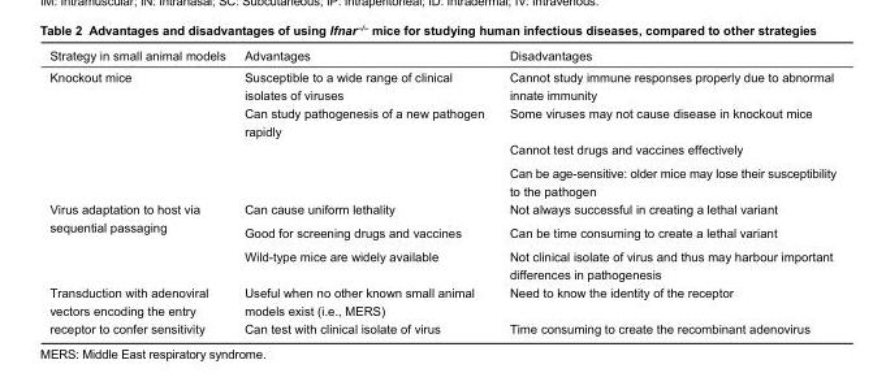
<table><thead><tr><td>Strategy in small animal models</td><td>Advantages</td><td>Disadvantages</td></tr></thead><tbody><tr><td rowspan="4">Knockout mice</td><td>Susceptible to a wide range of clinical isolates of viruses</td><td>Cannot study immune responses properly due to abnormal innate immunity</td></tr><tr><td>Can study pathogenesis of a new pathogen rapidly</td><td>Some viruses may not cause disease in knockout mice</td></tr><tr><td></td><td>Cannot test drugs and vaccines effectively</td></tr><tr><td></td><td>Can be age-sensitive: older mice may lose their susceptibility to the pathogen</td></tr><tr><td rowspan="3">Virus adaptation to host via sequential passaging</td><td>Can cause uniform lethality</td><td>Not always successful in creating a lethal variant</td></tr><tr><td>Good for screening drugs and vaccines</td><td>Can be time consuming to create a lethal variant</td></tr><tr><td>Wild-type mice are widely available</td><td>Not clinical isolate of virus and thus may harbour important differences in pathogenesis</td></tr><tr><td rowspan="2">Transduction with adenoviral vectors encoding the entry receptor to confer sensitivity</td><td>Useful when no other known small animal models exist (i.e., MERS)</td><td>Need to know the identity of the receptor</td></tr><tr><td>Can test with clinical isolate of virus</td><td>Time consuming to create the recombinant adenovirus</td></tr></tbody></table>